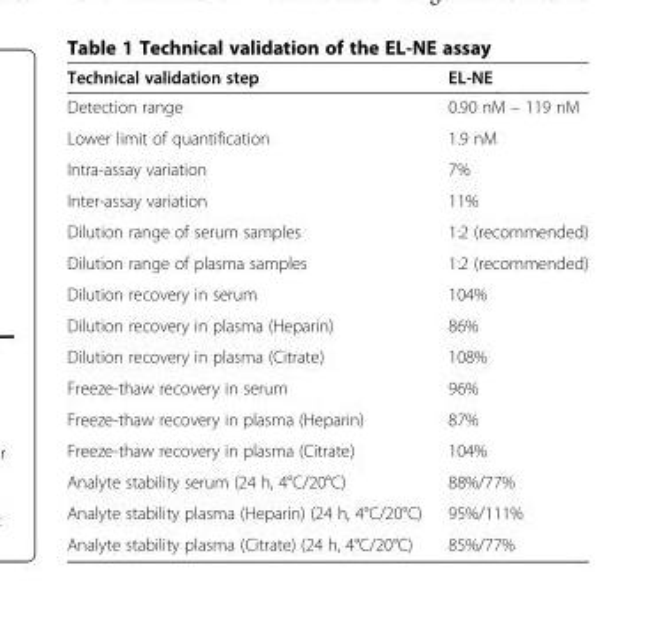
<table><thead><tr><td>Technical validation step</td><td>EL-NE</td></tr></thead><tbody><tr><td>Detection range</td><td>0.90 nM – 119 nM</td></tr><tr><td>Lower limit of quantification</td><td>1.9 nM</td></tr><tr><td>Intra-assay variation</td><td>7%</td></tr><tr><td>Inter-assay variation</td><td>11%</td></tr><tr><td>Dilution range of serum samples</td><td>1:2 (recommended)</td></tr><tr><td>Dilution range of plasma samples</td><td>1:2 (recommended)</td></tr><tr><td>Dilution recovery in serum</td><td>104%</td></tr><tr><td>Dilution recovery in plasma (Heparin)</td><td>86%</td></tr><tr><td>Dilution recovery in plasma (Citrate)</td><td>108%</td></tr><tr><td>Freeze-thaw recovery in serum</td><td>96%</td></tr><tr><td>Freeze-thaw recovery in plasma (Heparin)</td><td>87%</td></tr><tr><td>Freeze-thaw recovery in plasma (Citrate)</td><td>104%</td></tr><tr><td>Analyte stability serum (24 h, 4°C/20°C)</td><td>88%/77%</td></tr><tr><td>Analyte stability plasma (Heparin) (24 h, 4°C/20°C)</td><td>95%/111%</td></tr><tr><td>Analyte stability plasma (Citrate) (24 h, 4°C/20°C)</td><td>85%/77%</td></tr></tbody></table>